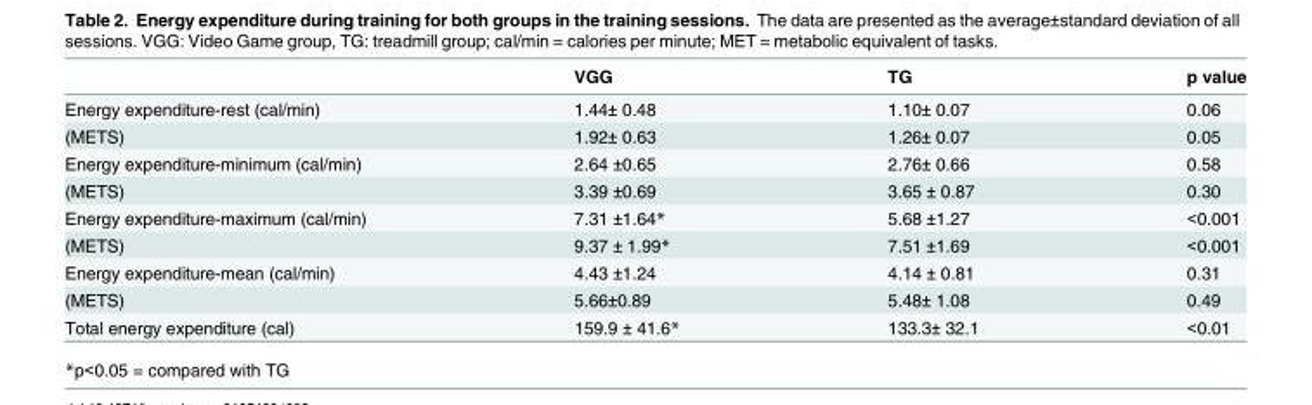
<table><thead><tr><td></td><td>VGG</td><td>TG</td><td>p value</td></tr></thead><tbody><tr><td>Energy expenditure-rest (cal/min)</td><td>1.44± 0.48</td><td>1.10± 0.07</td><td>0.06</td></tr><tr><td>(METS)</td><td>1.92± 0.63</td><td>1.26± 0.07</td><td>0.05</td></tr><tr><td>Energy expenditure-minimum (cal/min)</td><td>2.64 ±0.65</td><td>2.76± 0.66</td><td>0.58</td></tr><tr><td>(METS)</td><td>3.39 ±0.69</td><td>3.65 ± 0.87</td><td>0.30</td></tr><tr><td>Energy expenditure-maximum (cal/min)</td><td>7.31 ±1.64*</td><td>5.68 ±1.27</td><td>&lt;0.001</td></tr><tr><td>(METS)</td><td>9.37 ± 1.99*</td><td>7.51 ±1.69</td><td>&lt;0.001</td></tr><tr><td>Energy expenditure-mean (cal/min)</td><td>4.43 ±1.24</td><td>4.14 ± 0.81</td><td>0.31</td></tr><tr><td>(METS)</td><td>5.66±0.89</td><td>5.48± 1.08</td><td>0.49</td></tr><tr><td>Total energy expenditure (cal)</td><td>159.9 ± 41.6*</td><td>133.3± 32.1</td><td>&lt;0.01</td></tr></tbody></table>